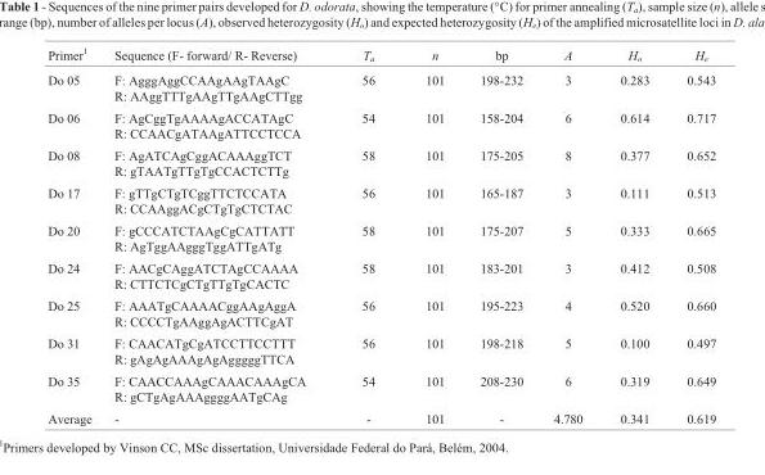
<table><thead><tr><td>Primer<sup>1</sup></td><td>Sequence (F- forward/ R- Reverse)</td><td>T<sub>a</sub></td><td>n</td><td>bp</td><td>A</td><td>H<sub>o</sub></td><td>H<sub>e</sub></td></tr></thead><tbody><tr><td>Do 05</td><td>F: AgggAggCCAAgAAgTAAgC R: AAggTTTgAAgTTgAAgCTTgg</td><td>56</td><td>101</td><td>198-232</td><td>3</td><td>0.283</td><td>0.543</td></tr><tr><td>Do 06</td><td>F: AgCggTgAAAAgACCATAgC R: CCAACgATAAgATTCCTCCA</td><td>54</td><td>101</td><td>158-204</td><td>6</td><td>0.614</td><td>0.717</td></tr><tr><td>Do 08</td><td>F: AgATCAgCggACAAAggTCT R: gTAATgTTgTgCCACTCTTg</td><td>58</td><td>101</td><td>175-205</td><td>8</td><td>0.377</td><td>0.652</td></tr><tr><td>Do 17</td><td>F: gTTgCTgTCggTTCTCCATA R: CCAAggACgCTgTgCTCTAC</td><td>56</td><td>101</td><td>165-187</td><td>3</td><td>0.111</td><td>0.513</td></tr><tr><td>Do 20</td><td>F: gCCCATCTAAgCgCATTATT R: AgTggAAgggTggATTgATg</td><td>58</td><td>101</td><td>175-207</td><td>5</td><td>0.333</td><td>0.665</td></tr><tr><td>Do 24</td><td>F: AACgCAggATCTAgCCAAAA R: CTTCTCgCTgTTgTgCACTC</td><td>58</td><td>101</td><td>183-201</td><td>3</td><td>0.412</td><td>0.508</td></tr><tr><td>Do 25</td><td>F: AAATgCAAAACggAAgAggA R: CCCCTgAAggAgACTTCgAT</td><td>56</td><td>101</td><td>195-223</td><td>4</td><td>0.520</td><td>0.660</td></tr><tr><td>Do 31</td><td>F: CAACATgCgATCCTTCCTTT R: gAgAgAAAgAgAgggggTTCA</td><td>56</td><td>101</td><td>198-218</td><td>5</td><td>0.100</td><td>0.497</td></tr><tr><td>Do 35</td><td>F: CAACCAAAgCAAACAAAgCA R: gCTgAgAAAggggAATgCAg</td><td>54</td><td>101</td><td>208-230</td><td>6</td><td>0.319</td><td>0.649</td></tr><tr><td>Average</td><td>-</td><td>-</td><td>101</td><td>-</td><td>4.780</td><td>0.341</td><td>0.619</td></tr></tbody></table>